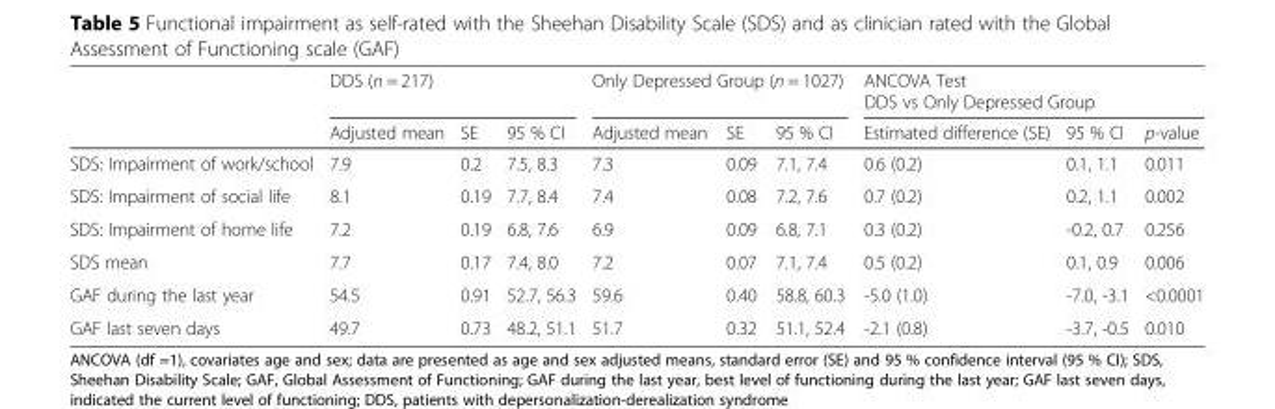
<table><thead><tr><td rowspan="2"></td><td colspan="3">DDS (n = 217)</td><td colspan="3">Only Depressed Group (n = 1027)</td><td colspan="3">ANCOVA Test DDS vs Only Depressed Group</td></tr><tr><td>Adjusted mean</td><td>SE</td><td>95 % CI</td><td>Adjusted mean</td><td>SE</td><td>95 % CI</td><td>Estimated difference (SE)</td><td>95 % CI</td><td>p-value</td></tr></thead><tbody><tr><td>SDS: Impairment of work/school</td><td>7.9</td><td>0.2</td><td>7.5, 8.3</td><td>7.3</td><td>0.09</td><td>7.1, 7.4</td><td>0.6 (0.2)</td><td>0.1, 1.1</td><td>0.011</td></tr><tr><td>SDS: Impairment of social life</td><td>8.1</td><td>0.19</td><td>7.7, 8.4</td><td>7.4</td><td>0.08</td><td>7.2, 7.6</td><td>0.7 (0.2)</td><td>0.2, 1.1</td><td>0.002</td></tr><tr><td>SDS: Impairment of home life</td><td>7.2</td><td>0.19</td><td>6.8, 7.6</td><td>6.9</td><td>0.09</td><td>6.8, 7.1</td><td>0.3 (0.2)</td><td>-0.2, 0.7</td><td>0.256</td></tr><tr><td>SDS mean</td><td>7.7</td><td>0.17</td><td>7.4, 8.0</td><td>7.2</td><td>0.07</td><td>7.1, 7.4</td><td>0.5 (0.2)</td><td>0.1, 0.9</td><td>0.006</td></tr><tr><td>GAF during the last year</td><td>54.5</td><td>0.91</td><td>52.7, 56.3</td><td>59.6</td><td>0.40</td><td>58.8, 60.3</td><td>-5.0 (1.0)</td><td>-7.0, -3.1</td><td>&lt;0.0001</td></tr><tr><td>GAF last seven days</td><td>49.7</td><td>0.73</td><td>48.2, 51.1</td><td>51.7</td><td>0.32</td><td>51.1, 52.4</td><td>-2.1 (0.8)</td><td>-3.7, -0.5</td><td>0.010</td></tr></tbody></table>